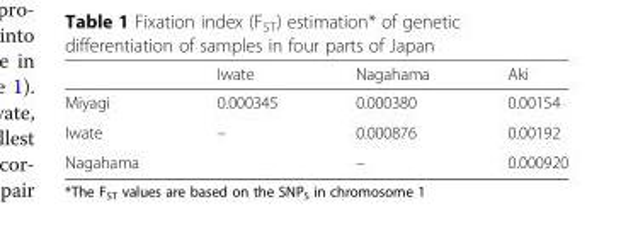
<table><thead><tr><td></td><td>Iwate</td><td>Nagahama</td><td>Aki</td></tr></thead><tbody><tr><td>Miyagi</td><td>0.000345</td><td>0.000380</td><td>0.00154</td></tr><tr><td>Iwate</td><td>–</td><td>0.000876</td><td>0.00192</td></tr><tr><td>Nagahama</td><td></td><td>–</td><td>0.000920</td></tr></tbody></table>